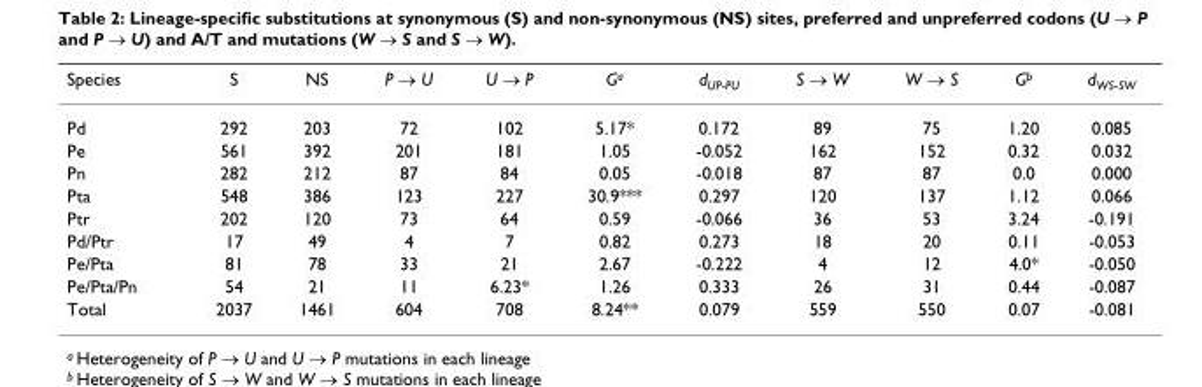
<table><thead><tr><td>Species</td><td>S</td><td>NS</td><td>P → U</td><td>U → P</td><td>G<sup>a</sup></td><td>d<sub>UP-PU</sub></td><td>S → W</td><td>W → S</td><td>G<sup>b</sup></td><td>d<sub>WS-SW</sub></td></tr></thead><tbody><tr><td>Pd</td><td>292</td><td>203</td><td>72</td><td>102</td><td>5.17*</td><td>0.172</td><td>89</td><td>75</td><td>1.20</td><td>0.085</td></tr><tr><td>Pe</td><td>561</td><td>392</td><td>201</td><td>181</td><td>1.05</td><td>-0.052</td><td>162</td><td>152</td><td>0.32</td><td>0.032</td></tr><tr><td>Pn</td><td>282</td><td>212</td><td>87</td><td>84</td><td>0.05</td><td>-0.018</td><td>87</td><td>87</td><td>0.0</td><td>0.000</td></tr><tr><td>Pta</td><td>548</td><td>386</td><td>123</td><td>227</td><td>30.9***</td><td>0.297</td><td>120</td><td>137</td><td>1.12</td><td>0.066</td></tr><tr><td>Ptr</td><td>202</td><td>120</td><td>73</td><td>64</td><td>0.59</td><td>-0.066</td><td>36</td><td>53</td><td>3.24</td><td>-0.191</td></tr><tr><td>Pd/Ptr</td><td>17</td><td>49</td><td>4</td><td>7</td><td>0.82</td><td>0.273</td><td>18</td><td>20</td><td>0.11</td><td>-0.053</td></tr><tr><td>Pe/Pta</td><td>81</td><td>78</td><td>33</td><td>21</td><td>2.67</td><td>-0.222</td><td>4</td><td>12</td><td>4.0*</td><td>-0.050</td></tr><tr><td>Pe/Pta/Pn</td><td>54</td><td>21</td><td>11</td><td>6.23*</td><td>1.26</td><td>0.333</td><td>26</td><td>31</td><td>0.44</td><td>-0.087</td></tr><tr><td>Total</td><td>2037</td><td>1461</td><td>604</td><td>708</td><td>8.24**</td><td>0.079</td><td>559</td><td>550</td><td>0.07</td><td>-0.081</td></tr></tbody></table>